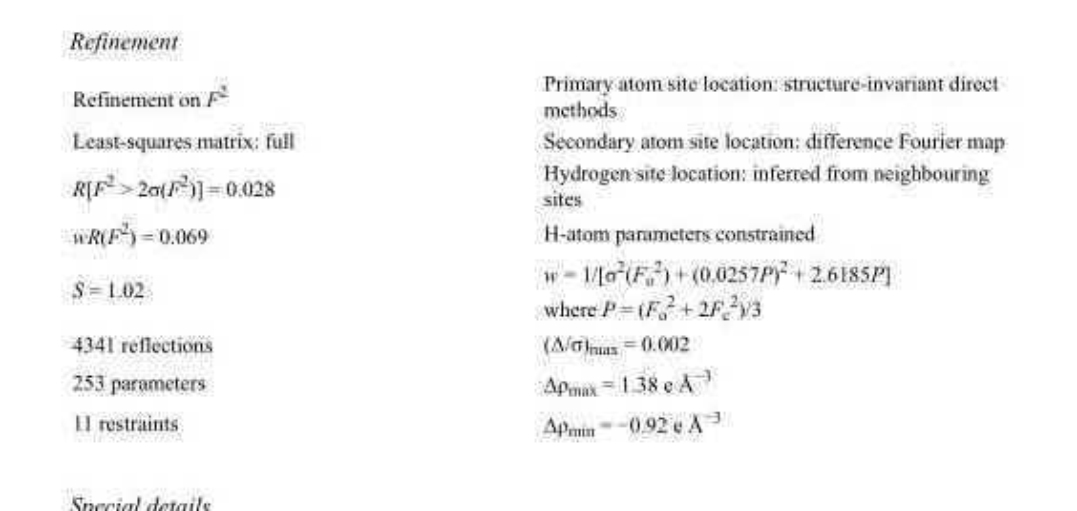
<table><tbody><tr><td>Refinement on F<sup>2</sup></td><td>Primary atom site location: structure-invariant direct methods</td></tr><tr><td>Least-squares matrix: full</td><td>Secondary atom site location: difference Fourier map</td></tr><tr><td>R[F<sup>2</sup> &gt; 2σ(F<sup>2</sup>)] = 0.028</td><td>Hydrogen site location: inferred from neighbouring sites</td></tr><tr><td>wR(F<sup>2</sup>) = 0.069</td><td>H-atom parameters constrained</td></tr><tr><td>S = 1.02</td><td>w = 1/[σ<sup>2</sup>(F<sub>o</sub> <sup>2</sup>) + (0.0257P)<sup>2</sup> + 2.6185P] where P = (F<sub>o</sub> <sup>2</sup> + 2F<sub>c</sub> <sup>2</sup>)/3</td></tr><tr><td>4341 reflections</td><td>(Δ/σ)<sub>max</sub> = 0.002</td></tr><tr><td>253 parameters</td><td>Δρ<sub>max</sub> = 1.38 e Å<sup>−3</sup></td></tr><tr><td>11 restraints</td><td>Δρ<sub>min</sub> = −0.92 e Å<sup>−3</sup></td></tr></tbody></table>